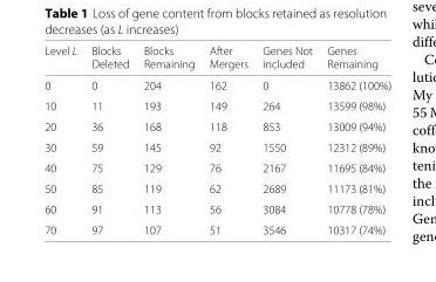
<table><thead><tr><td rowspan="2">Level L</td><td rowspan="2">Blocks Deleted</td><td rowspan="2">Blocks Remaining</td><td rowspan="2">After Mergers</td><td rowspan="2">Genes Not included</td><td rowspan="2">Genes Remaining</td></tr><tr></tr></thead><tbody><tr><td>0</td><td>0</td><td>204</td><td>162</td><td>0</td><td>13862 (100%)</td></tr><tr><td>10</td><td>11</td><td>193</td><td>149</td><td>264</td><td>13599 (98%)</td></tr><tr><td>20</td><td>36</td><td>168</td><td>118</td><td>853</td><td>13009 (94%)</td></tr><tr><td>30</td><td>59</td><td>145</td><td>92</td><td>1550</td><td>12312 (89%)</td></tr><tr><td>40</td><td>75</td><td>129</td><td>76</td><td>2167</td><td>11695 (84%)</td></tr><tr><td>50</td><td>85</td><td>119</td><td>62</td><td>2689</td><td>11173 (81%)</td></tr><tr><td>60</td><td>91</td><td>113</td><td>56</td><td>3084</td><td>10778 (78%)</td></tr><tr><td>70</td><td>97</td><td>107</td><td>51</td><td>3546</td><td>10317 (74%)</td></tr></tbody></table>